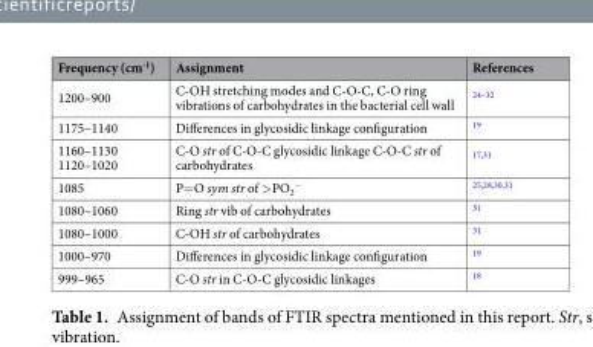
<table><thead><tr><td>Frequency (cm<sup>-1</sup>)</td><td>Assignment</td><td>References</td></tr></thead><tbody><tr><td>1200–900</td><td>C-OH stretching modes and C-O-C, C-O ring vibrations of carbohydrates in the bacterial cell wall</td><td><sup>24–32</sup></td></tr><tr><td>1175–1140</td><td>Differences in glycosidic linkage configuration</td><td><sup>19</sup></td></tr><tr><td>1160–1130 1120–1020</td><td>C-O str of C-O-C glycosidic linkage C-O-C str of carbohydrates</td><td><sup>17,31</sup></td></tr><tr><td>1085</td><td>P=O sym str of &gt;PO<sub>2</sub> <sup>−</sup></td><td><sup>25,28,30,31</sup></td></tr><tr><td>1080–1060</td><td>Ring str vib of carbohydrates</td><td><sup>31</sup></td></tr><tr><td>1080–1000</td><td>C-OH str of carbohydrates</td><td><sup>31</sup></td></tr><tr><td>1000–970</td><td>Differences in glycosidic linkage configuration</td><td><sup>19</sup></td></tr><tr><td>999–965</td><td>C-O str in C-O-C glycosidic linkages</td><td><sup>18</sup></td></tr></tbody></table>